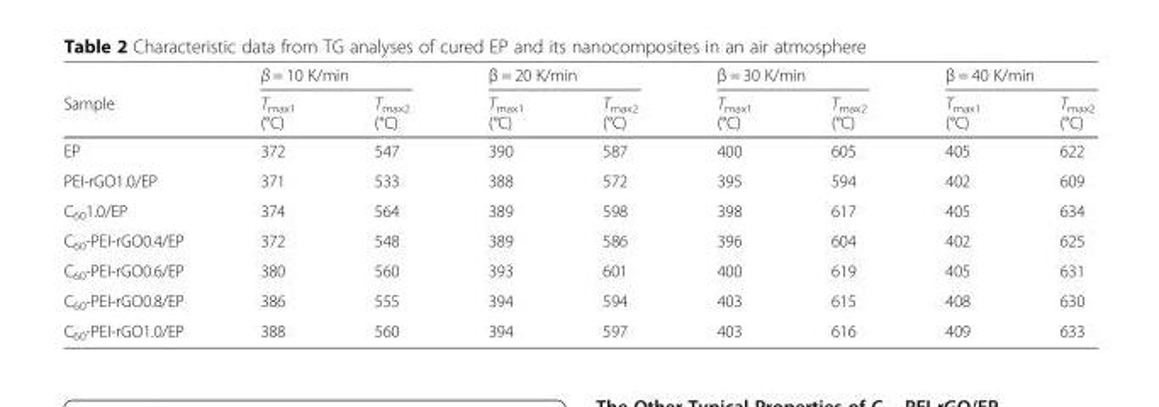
<table><thead><tr><td rowspan="2">Sample</td><td colspan="2">β = 10 K/min</td><td colspan="2">β = 20 K/min</td><td colspan="2">β = 30 K/min</td><td colspan="2">β = 40 K/min</td></tr><tr><td>T<sub>max1</sub> (°C)</td><td>T<sub>max2</sub> (°C)</td><td>T<sub>max1</sub> (°C)</td><td>T<sub>max2</sub> (°C)</td><td>T<sub>max1</sub> (°C)</td><td>T<sub>max2</sub> (°C)</td><td>T<sub>max1</sub> (°C)</td><td>T<sub>max2</sub> (°C)</td></tr></thead><tbody><tr><td>EP</td><td>372</td><td>547</td><td>390</td><td>587</td><td>400</td><td>605</td><td>405</td><td>622</td></tr><tr><td>PEI-rGO1.0/EP</td><td>371</td><td>533</td><td>388</td><td>572</td><td>395</td><td>594</td><td>402</td><td>609</td></tr><tr><td>C<sub>60</sub>1.0/EP</td><td>374</td><td>564</td><td>389</td><td>598</td><td>398</td><td>617</td><td>405</td><td>634</td></tr><tr><td>C<sub>60</sub>-PEI-rGO0.4/EP</td><td>372</td><td>548</td><td>389</td><td>586</td><td>396</td><td>604</td><td>402</td><td>625</td></tr><tr><td>C<sub>60</sub>-PEI-rGO0.6/EP</td><td>380</td><td>560</td><td>393</td><td>601</td><td>400</td><td>619</td><td>405</td><td>631</td></tr><tr><td>C<sub>60</sub>-PEI-rGO0.8/EP</td><td>386</td><td>555</td><td>394</td><td>594</td><td>403</td><td>615</td><td>408</td><td>630</td></tr><tr><td>C<sub>60</sub>-PEI-rGO1.0/EP</td><td>388</td><td>560</td><td>394</td><td>597</td><td>403</td><td>616</td><td>409</td><td>633</td></tr></tbody></table>